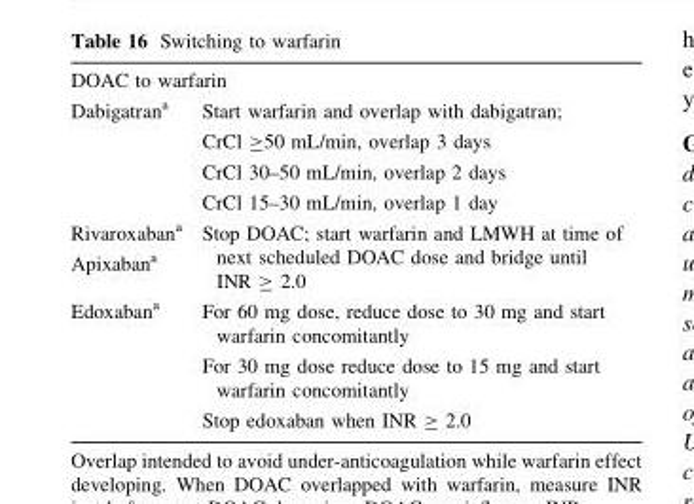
<table><tbody><tr><td colspan="2">DOAC to warfarin</td></tr><tr><td>Dabigatran<sup>a</sup></td><td>Start warfarin and overlap with dabigatran; CrCl ≥50 mL/min, overlap 3 days CrCl 30–50 mL/min, overlap 2 days CrCl 15–30 mL/min, overlap 1 day</td></tr><tr><td>Rivaroxaban<sup>a</sup> Apixaban<sup>a</sup></td><td>Stop DOAC; start warfarin and LMWH at time of next scheduled DOAC dose and bridge until INR ≥ 2.0</td></tr><tr><td>Edoxaban<sup>a</sup></td><td>For 60 mg dose, reduce dose to 30 mg and start warfarin concomitantly For 30 mg dose reduce dose to 15 mg and start warfarin concomitantly Stop edoxaban when INR ≥ 2.0</td></tr></tbody></table>